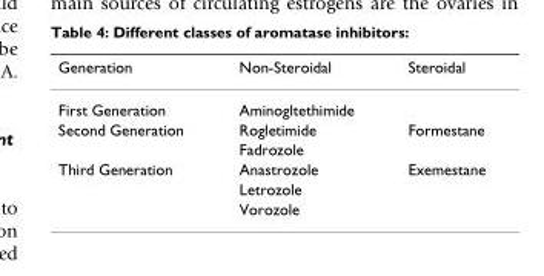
<table><thead><tr><td>Generation</td><td>Non-Steroidal</td><td>Steroidal</td></tr></thead><tbody><tr><td>First Generation</td><td>Aminogltethimide</td><td></td></tr><tr><td rowspan="2">Second Generation</td><td>Rogletimide</td><td>Formestane</td></tr><tr><td>Fadrozole</td><td></td></tr><tr><td rowspan="3">Third Generation</td><td>Anastrozole</td><td>Exemestane</td></tr><tr><td>Letrozole</td><td></td></tr><tr><td>Vorozole</td><td></td></tr></tbody></table>